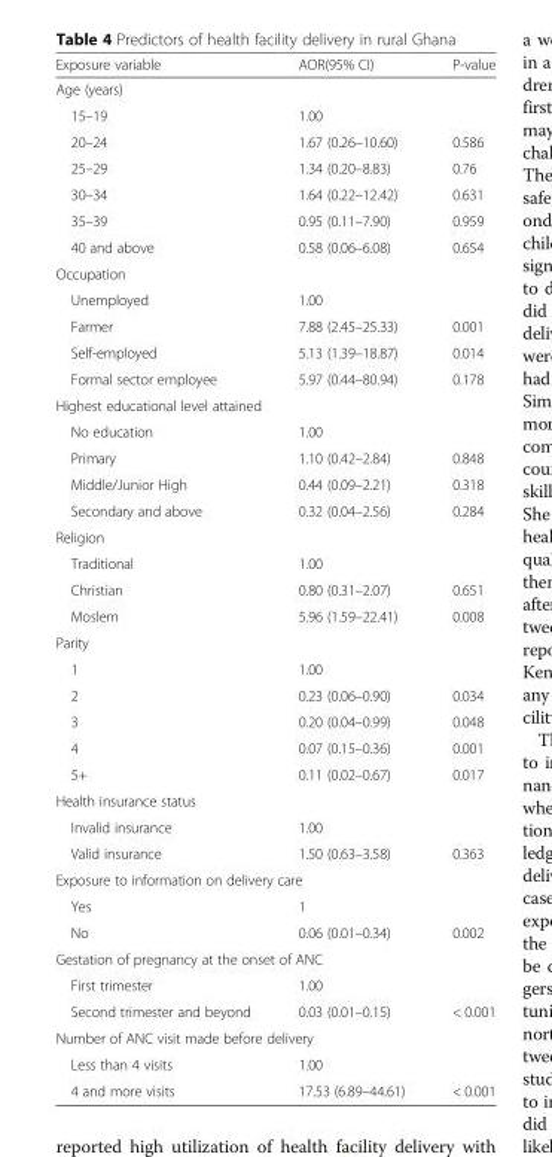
<table><thead><tr><td>Exposure variable</td><td>AOR(95% CI)</td><td>P-value</td></tr></thead><tbody><tr><td colspan="3">Age (years)</td></tr><tr><td>15–19</td><td>1.00</td><td></td></tr><tr><td>20–24</td><td>1.67 (0.26–10.60)</td><td>0.586</td></tr><tr><td>25–29</td><td>1.34 (0.20–8.83)</td><td>0.76</td></tr><tr><td>30–34</td><td>1.64 (0.22–12.42)</td><td>0.631</td></tr><tr><td>35–39</td><td>0.95 (0.11–7.90)</td><td>0.959</td></tr><tr><td>40 and above</td><td>0.58 (0.06–6.08)</td><td>0.654</td></tr><tr><td colspan="3">Occupation</td></tr><tr><td>Unemployed</td><td>1.00</td><td></td></tr><tr><td>Farmer</td><td>7.88 (2.45–25.33)</td><td>0.001</td></tr><tr><td>Self-employed</td><td>5.13 (1.39–18.87)</td><td>0.014</td></tr><tr><td>Formal sector employee</td><td>5.97 (0.44–80.94)</td><td>0.178</td></tr><tr><td colspan="3">Highest educational level attained</td></tr><tr><td>No education</td><td>1.00</td><td></td></tr><tr><td>Primary</td><td>1.10 (0.42–2.84)</td><td>0.848</td></tr><tr><td>Middle/Junior High</td><td>0.44 (0.09–2.21)</td><td>0.318</td></tr><tr><td>Secondary and above</td><td>0.32 (0.04–2.56)</td><td>0.284</td></tr><tr><td colspan="3">Religion</td></tr><tr><td>Traditional</td><td>1.00</td><td></td></tr><tr><td>Christian</td><td>0.80 (0.31–2.07)</td><td>0.651</td></tr><tr><td>Moslem</td><td>5.96 (1.59–22.41)</td><td>0.008</td></tr><tr><td colspan="3">Parity</td></tr><tr><td>1</td><td>1.00</td><td></td></tr><tr><td>2</td><td>0.23 (0.06–0.90)</td><td>0.034</td></tr><tr><td>3</td><td>0.20 (0.04–0.99)</td><td>0.048</td></tr><tr><td>4</td><td>0.07 (0.15–0.36)</td><td>0.001</td></tr><tr><td>5+</td><td>0.11 (0.02–0.67)</td><td>0.017</td></tr><tr><td colspan="3">Health insurance status</td></tr><tr><td>Invalid insurance</td><td>1.00</td><td></td></tr><tr><td>Valid insurance</td><td>1.50 (0.63–3.58)</td><td>0.363</td></tr><tr><td colspan="3">Exposure to information on delivery care</td></tr><tr><td>Yes</td><td>1</td><td></td></tr><tr><td>No</td><td>0.06 (0.01–0.34)</td><td>0.002</td></tr><tr><td colspan="3">Gestation of pregnancy at the onset of ANC</td></tr><tr><td>First trimester</td><td>1.00</td><td></td></tr><tr><td>Second trimester and beyond</td><td>0.03 (0.01–0.15)</td><td>&lt; 0.001</td></tr><tr><td colspan="3">Number of ANC visit made before delivery</td></tr><tr><td>Less than 4 visits</td><td>1.00</td><td></td></tr><tr><td>4 and more visits</td><td>17.53 (6.89–44.61)</td><td>&lt; 0.001</td></tr></tbody></table>